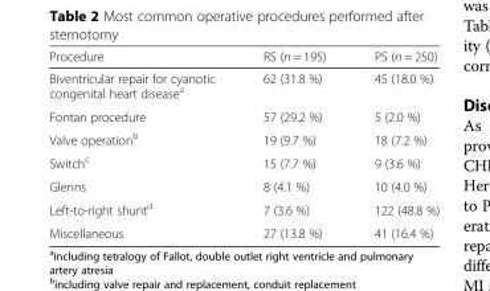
<table><thead><tr><td>Procedure</td><td>RS (n = 195)</td><td>PS (n = 250)</td></tr></thead><tbody><tr><td>Biventricular repair for cyanotic congenital heart disease<sup>a</sup></td><td>62 (31.8 %)</td><td>45 (18.0 %)</td></tr><tr><td>Fontan procedure</td><td>57 (29.2 %)</td><td>5 (2.0 %)</td></tr><tr><td>Valve operation<sup>b</sup></td><td>19 (9.7 %)</td><td>18 (7.2 %)</td></tr><tr><td>Switch<sup>c</sup></td><td>15 (7.7 %)</td><td>9 (3.6 %)</td></tr><tr><td>Glenns</td><td>8 (4.1 %)</td><td>10 (4.0 %)</td></tr><tr><td>Left-to-right shunt<sup>d</sup></td><td>7 (3.6 %)</td><td>122 (48.8 %)</td></tr><tr><td>Miscellaneous</td><td>27 (13.8 %)</td><td>41 (16.4 %)</td></tr></tbody></table>